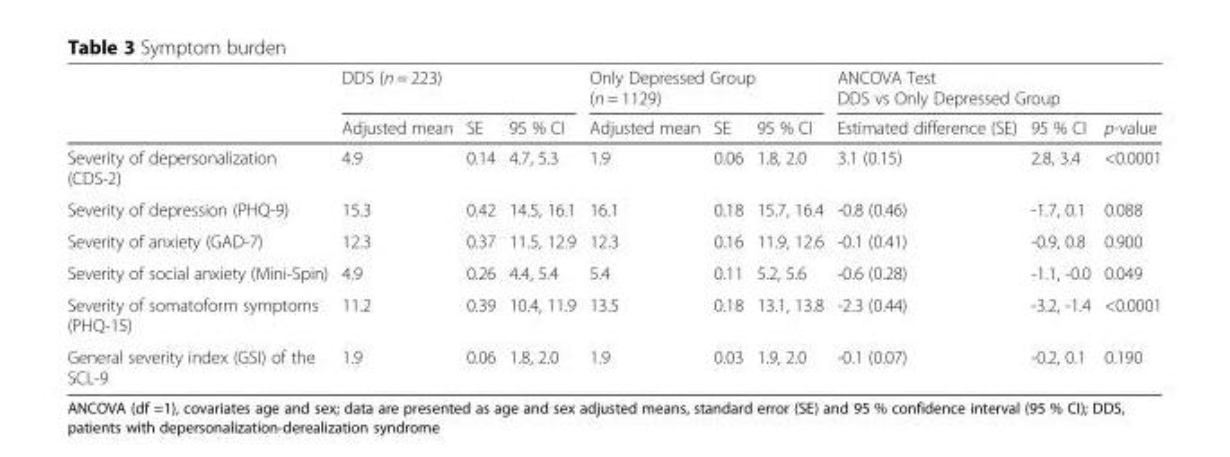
<table><thead><tr><td rowspan="2"></td><td colspan="3">DDS (n = 223)</td><td colspan="3">Only Depressed Group (n = 1129)</td><td colspan="3">ANCOVA Test DDS vs Only Depressed Group</td></tr><tr><td>Adjusted mean</td><td>SE</td><td>95 % CI</td><td>Adjusted mean</td><td>SE</td><td>95 % CI</td><td>Estimated difference (SE)</td><td>95 % CI</td><td>p-value</td></tr></thead><tbody><tr><td>Severity of depersonalization (CDS-2)</td><td>4.9</td><td>0.14</td><td>4.7, 5.3</td><td>1.9</td><td>0.06</td><td>1.8, 2.0</td><td>3.1 (0.15)</td><td>2.8, 3.4</td><td>&lt;0.0001</td></tr><tr><td>Severity of depression (PHQ-9)</td><td>15.3</td><td>0.42</td><td>14.5, 16.1</td><td>16.1</td><td>0.18</td><td>15.7, 16.4</td><td>-0.8 (0.46)</td><td>-1.7, 0.1</td><td>0.088</td></tr><tr><td>Severity of anxiety (GAD-7)</td><td>12.3</td><td>0.37</td><td>11.5, 12.9</td><td>12.3</td><td>0.16</td><td>11.9, 12.6</td><td>-0.1 (0.41)</td><td>-0.9, 0.8</td><td>0.900</td></tr><tr><td>Severity of social anxiety (Mini-Spin)</td><td>4.9</td><td>0.26</td><td>4.4, 5.4</td><td>5.4</td><td>0.11</td><td>5.2, 5.6</td><td>-0.6 (0.28)</td><td>-1.1, -0.0</td><td>0.049</td></tr><tr><td>Severity of somatoform symptoms (PHQ-15)</td><td>11.2</td><td>0.39</td><td>10.4, 11.9</td><td>13.5</td><td>0.18</td><td>13.1, 13.8</td><td>-2.3 (0.44)</td><td>-3.2, -1.4</td><td>&lt;0.0001</td></tr><tr><td>General severity index (GSI) of the SCL-9</td><td>1.9</td><td>0.06</td><td>1.8, 2.0</td><td>1.9</td><td>0.03</td><td>1.9, 2.0</td><td>-0.1 (0.07)</td><td>-0.2, 0.1</td><td>0.190</td></tr></tbody></table>